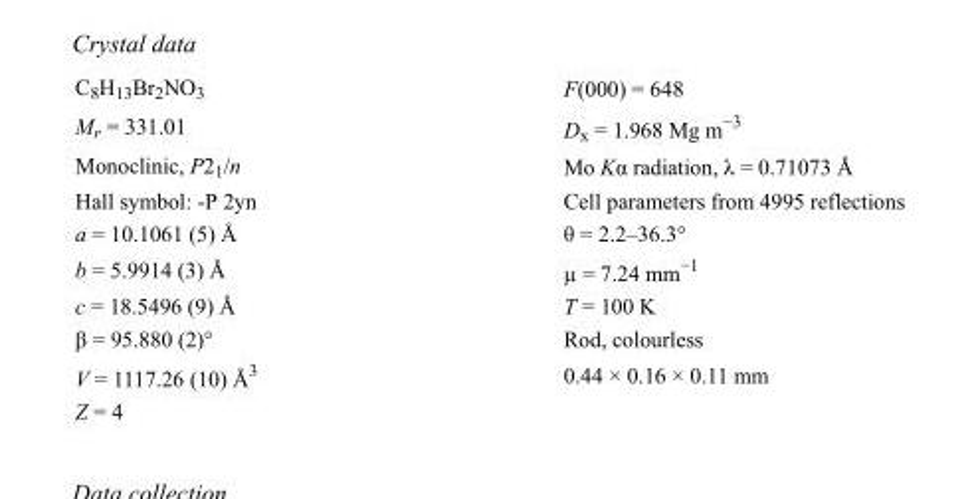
<table><tbody><tr><td>C<sub>8</sub>H<sub>13</sub>Br<sub>2</sub>NO<sub>3</sub></td><td>F(000) = 648</td></tr><tr><td>M<sub>r</sub> = 331.01</td><td>D<sub>x</sub> = 1.968 Mg m<sup>−3</sup></td></tr><tr><td>Monoclinic, P2<sub>1</sub>/n</td><td>Mo Kα radiation, λ = 0.71073 Å</td></tr><tr><td>Hall symbol: -P 2yn</td><td>Cell parameters from 4995 reflections</td></tr><tr><td>a = 10.1061 (5) Å</td><td>θ = 2.2–36.3°</td></tr><tr><td>b = 5.9914 (3) Å</td><td>µ = 7.24 mm<sup>−1</sup></td></tr><tr><td>c = 18.5496 (9) Å</td><td>T = 100 K</td></tr><tr><td>β = 95.880 (2)°</td><td>Rod, colourless</td></tr><tr><td>V = 1117.26 (10) Å<sup>3</sup></td><td>0.44 × 0.16 × 0.11 mm</td></tr><tr><td>Z = 4</td><td></td></tr></tbody></table>